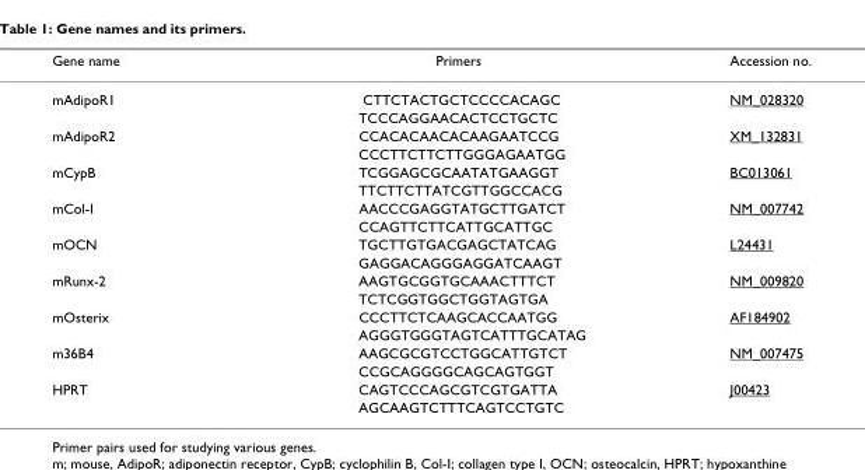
<table><thead><tr><td>Gene name</td><td>Primers</td><td>Accession no.</td></tr></thead><tbody><tr><td rowspan="2">mAdipoR1</td><td>CTTCTACTGCTCCCCACAGC</td><td>NM_028320</td></tr><tr><td>TCCCAGGAACACTCCTGCTC</td><td></td></tr><tr><td rowspan="2">mAdipoR2</td><td>CCACACAACACAAGAATCCG</td><td>XM_132831</td></tr><tr><td>CCCTTCTTCTTGGGAGAATGG</td><td></td></tr><tr><td rowspan="2">mCypB</td><td>TCGGAGCGCAATATGAAGGT</td><td>BC013061</td></tr><tr><td>TTCTTCTTATCGTTGGCCACG</td><td></td></tr><tr><td rowspan="2">mCol-I</td><td>AACCCGAGGTATGCTTGATCT</td><td>NM_007742</td></tr><tr><td>CCAGTTCTTCATTGCATTGC</td><td></td></tr><tr><td rowspan="2">mOCN</td><td>TGCTTGTGACGAGCTATCAG</td><td>L24431</td></tr><tr><td>GAGGACAGGGAGGATCAAGT</td><td></td></tr><tr><td rowspan="2">mRunx-2</td><td>AAGTGCGGTGCAAACTTTCT</td><td>NM_009820</td></tr><tr><td>TCTCGGTGGCTGGTAGTGA</td><td></td></tr><tr><td rowspan="2">mOsterix</td><td>CCCTTCTCAAGCACCAATGG</td><td>AF184902</td></tr><tr><td>AGGGTGGGTAGTCATTTGCATAG</td><td></td></tr><tr><td rowspan="2">m36B4</td><td>AAGCGCGTCCTGGCATTGTCT</td><td>NM_007475</td></tr><tr><td>CCGCAGGGGCAGCAGTGGT</td><td></td></tr><tr><td rowspan="2">HPRT</td><td>CAGTCCCAGCGTCGTGATTA</td><td>J00423</td></tr><tr><td>AGCAAGTCTTTCAGTCCTGTC</td><td></td></tr></tbody></table>